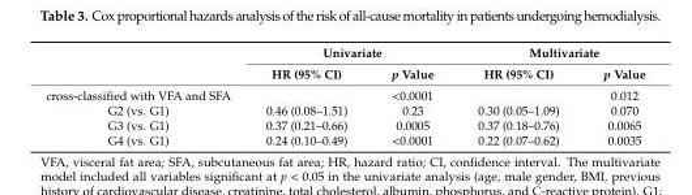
<table><thead><tr><td rowspan="2"></td><td colspan="2">Univariate</td><td colspan="2">Multivariate</td></tr><tr><td>HR (95% CI)</td><td>p Value</td><td>HR (95% CI)</td><td>p Value</td></tr></thead><tbody><tr><td>cross-classified with VFA and SFA</td><td></td><td>&lt;0.0001</td><td></td><td>0.012</td></tr><tr><td>G2 (vs. G1)</td><td>0.46 (0.08–1.51)</td><td>0.23</td><td>0.30 (0.05–1.09)</td><td>0.070</td></tr><tr><td>G3 (vs. G1)</td><td>0.37 (0.21–0.66)</td><td>0.0005</td><td>0.37 (0.18–0.76)</td><td>0.0065</td></tr><tr><td>G4 (vs. G1)</td><td>0.24 (0.10–0.49)</td><td>&lt;0.0001</td><td>0.22 (0.07–0.62)</td><td>0.0035</td></tr></tbody></table>